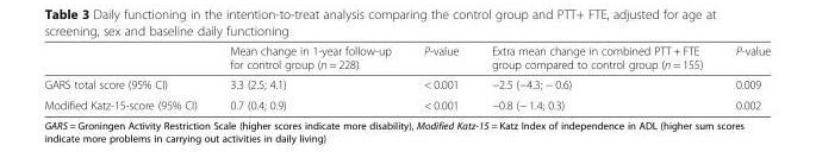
<table><thead><tr><td></td><td>Mean change in 1-year follow-up for control group (n = 228)</td><td>P-value</td><td>Extra mean change in combined PTT + FTE group compared to control group (n = 155)</td><td>P-value</td></tr></thead><tbody><tr><td>GARS total score (95% CI)</td><td>3.3 (2.5; 4.1)</td><td>&lt; 0.001</td><td>−2.5 (−4.3; − 0.6)</td><td>0.009</td></tr><tr><td>Modified Katz-15-score (95% CI)</td><td>0.7 (0.4; 0.9)</td><td>&lt; 0.001</td><td>−0.8 (− 1.4; 0.3)</td><td>0.002</td></tr></tbody></table>